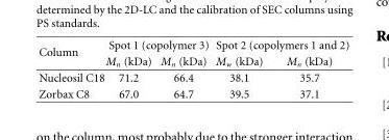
<table><thead><tr><td rowspan="2">Column</td><td colspan="2">Spot 1 (copolymer 3)</td><td colspan="2">Spot 2 (copolymers 1 and 2)</td></tr><tr><td>M<sub>n</sub> (kDa)</td><td>M<sub>n</sub> (kDa)</td><td>M<sub>w</sub> (kDa)</td><td>M<sub>n</sub> (kDa)</td></tr></thead><tbody><tr><td>Nucleosil C18</td><td>71.2</td><td>66.4</td><td>38.1</td><td>35.7</td></tr><tr><td>Zorbax C8</td><td>67.0</td><td>64.7</td><td>39.5</td><td>37.1</td></tr></tbody></table>